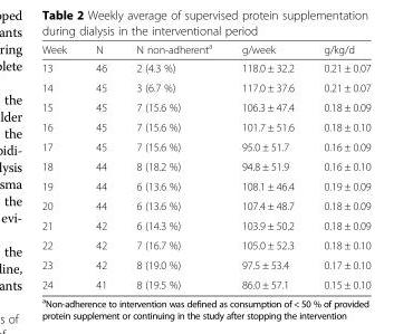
<table><thead><tr><td>Week</td><td>N</td><td>N non-adherent<sup>a</sup></td><td>g/week</td><td>g/kg/d</td></tr></thead><tbody><tr><td>13</td><td>46</td><td>2 (4.3 %)</td><td>118.0 ± 32.2</td><td>0.21 ± 0.07</td></tr><tr><td>14</td><td>45</td><td>3 (6.7 %)</td><td>117.0 ± 37.6</td><td>0.21 ± 0.07</td></tr><tr><td>15</td><td>45</td><td>7 (15.6 %)</td><td>106.3 ± 47.4</td><td>0.18 ± 0.09</td></tr><tr><td>16</td><td>45</td><td>7 (15.6 %)</td><td>101.7 ± 51.6</td><td>0.18 ± 0.10</td></tr><tr><td>17</td><td>45</td><td>7 (15.6 %)</td><td>95.0 ± 51.7</td><td>0.16 ± 0.09</td></tr><tr><td>18</td><td>44</td><td>8 (18.2 %)</td><td>94.8 ± 51.9</td><td>0.16 ± 0.10</td></tr><tr><td>19</td><td>44</td><td>6 (13.6 %)</td><td>108.1 ± 46.4</td><td>0.19 ± 0.09</td></tr><tr><td>20</td><td>44</td><td>6 (13.6 %)</td><td>107.4 ± 48.7</td><td>0.18 ± 0.09</td></tr><tr><td>21</td><td>42</td><td>6 (14.3 %)</td><td>103.9 ± 50.2</td><td>0.18 ± 0.09</td></tr><tr><td>22</td><td>42</td><td>7 (16.7 %)</td><td>105.0 ± 52.3</td><td>0.18 ± 0.10</td></tr><tr><td>23</td><td>42</td><td>8 (19.0 %)</td><td>97.5 ± 53.4</td><td>0.17 ± 0.10</td></tr><tr><td>24</td><td>41</td><td>8 (19.5 %)</td><td>86.0 ± 57.1</td><td>0.15 ± 0.10</td></tr></tbody></table>